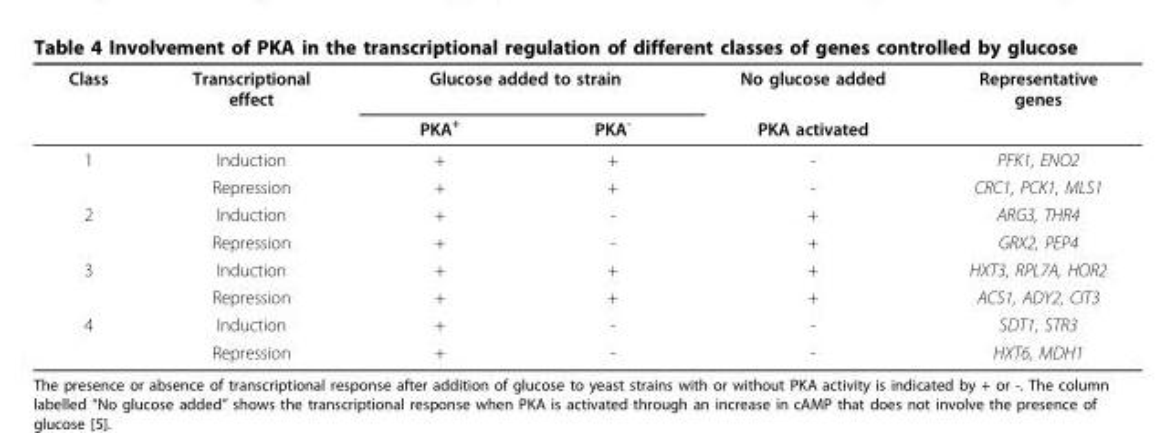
<table><thead><tr><td rowspan="2">Class</td><td rowspan="2">Transcriptional effect</td><td colspan="2">Glucose added to strain</td><td rowspan="2">No glucose added PKA activated</td><td rowspan="2">Representative genes</td></tr><tr><td>PKA<sup>+</sup></td><td>PKA<sup>-</sup></td></tr></thead><tbody><tr><td rowspan="2">1</td><td>Induction</td><td>+</td><td>+</td><td>-</td><td>PFK1, ENO2</td></tr><tr><td>Repression</td><td>+</td><td>+</td><td>-</td><td>CRC1, PCK1, MLS1</td></tr><tr><td rowspan="2">2</td><td>Induction</td><td>+</td><td>-</td><td>+</td><td>ARG3, THR4</td></tr><tr><td>Repression</td><td>+</td><td>-</td><td>+</td><td>GRX2, PEP4</td></tr><tr><td rowspan="2">3</td><td>Induction</td><td>+</td><td>+</td><td>+</td><td>HXT3, RPL7A, HOR2</td></tr><tr><td>Repression</td><td>+</td><td>+</td><td>+</td><td>ACS1, ADY2, CIT3</td></tr><tr><td rowspan="2">4</td><td>Induction</td><td>+</td><td>-</td><td>-</td><td>SDT1, STR3</td></tr><tr><td>Repression</td><td>+</td><td>-</td><td>-</td><td>HXT6, MDH1</td></tr></tbody></table>